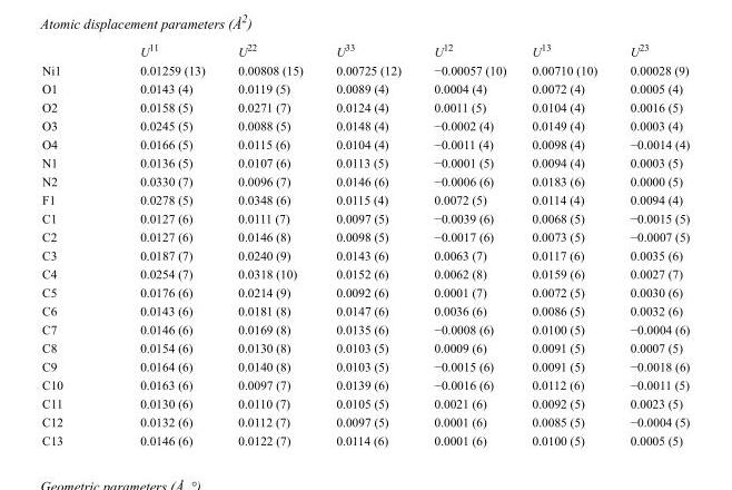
<table><thead><tr><td></td><td>U<sup>11</sup></td><td>U<sup>22</sup></td><td>U<sup>33</sup></td><td>U<sup>12</sup></td><td>U<sup>13</sup></td><td>U<sup>23</sup></td></tr></thead><tbody><tr><td>Ni1</td><td>0.01259 (13)</td><td>0.00808 (15)</td><td>0.00725 (12)</td><td>−0.00057 (10)</td><td>0.00710 (10)</td><td>0.00028 (9)</td></tr><tr><td>O1</td><td>0.0143 (4)</td><td>0.0119 (5)</td><td>0.0089 (4)</td><td>0.0004 (4)</td><td>0.0072 (4)</td><td>0.0005 (4)</td></tr><tr><td>O2</td><td>0.0158 (5)</td><td>0.0271 (7)</td><td>0.0124 (4)</td><td>0.0011 (5)</td><td>0.0104 (4)</td><td>0.0016 (5)</td></tr><tr><td>O3</td><td>0.0245 (5)</td><td>0.0088 (5)</td><td>0.0148 (4)</td><td>−0.0002 (4)</td><td>0.0149 (4)</td><td>0.0003 (4)</td></tr><tr><td>O4</td><td>0.0166 (5)</td><td>0.0115 (6)</td><td>0.0104 (4)</td><td>−0.0011 (4)</td><td>0.0098 (4)</td><td>−0.0014 (4)</td></tr><tr><td>N1</td><td>0.0136 (5)</td><td>0.0107 (6)</td><td>0.0113 (5)</td><td>−0.0001 (5)</td><td>0.0094 (4)</td><td>0.0003 (5)</td></tr><tr><td>N2</td><td>0.0330 (7)</td><td>0.0096 (7)</td><td>0.0146 (6)</td><td>−0.0006 (6)</td><td>0.0183 (6)</td><td>0.0000 (5)</td></tr><tr><td>F1</td><td>0.0278 (5)</td><td>0.0348 (6)</td><td>0.0115 (4)</td><td>0.0072 (5)</td><td>0.0114 (4)</td><td>0.0094 (4)</td></tr><tr><td>C1</td><td>0.0127 (6)</td><td>0.0111 (7)</td><td>0.0097 (5)</td><td>−0.0039 (6)</td><td>0.0068 (5)</td><td>−0.0015 (5)</td></tr><tr><td>C2</td><td>0.0127 (6)</td><td>0.0146 (8)</td><td>0.0098 (5)</td><td>−0.0017 (6)</td><td>0.0073 (5)</td><td>−0.0007 (5)</td></tr><tr><td>C3</td><td>0.0187 (7)</td><td>0.0240 (9)</td><td>0.0143 (6)</td><td>0.0063 (7)</td><td>0.0117 (6)</td><td>0.0035 (6)</td></tr><tr><td>C4</td><td>0.0254 (7)</td><td>0.0318 (10)</td><td>0.0152 (6)</td><td>0.0062 (8)</td><td>0.0159 (6)</td><td>0.0027 (7)</td></tr><tr><td>C5</td><td>0.0176 (6)</td><td>0.0214 (9)</td><td>0.0092 (6)</td><td>0.0001 (7)</td><td>0.0072 (5)</td><td>0.0030 (6)</td></tr><tr><td>C6</td><td>0.0143 (6)</td><td>0.0181 (8)</td><td>0.0147 (6)</td><td>0.0036 (6)</td><td>0.0086 (5)</td><td>0.0032 (6)</td></tr><tr><td>C7</td><td>0.0146 (6)</td><td>0.0169 (8)</td><td>0.0135 (6)</td><td>−0.0008 (6)</td><td>0.0100 (5)</td><td>−0.0004 (6)</td></tr><tr><td>C8</td><td>0.0154 (6)</td><td>0.0130 (8)</td><td>0.0103 (5)</td><td>0.0009 (6)</td><td>0.0091 (5)</td><td>0.0007 (5)</td></tr><tr><td>C9</td><td>0.0164 (6)</td><td>0.0140 (8)</td><td>0.0103 (5)</td><td>−0.0015 (6)</td><td>0.0091 (5)</td><td>−0.0018 (6)</td></tr><tr><td>C10</td><td>0.0163 (6)</td><td>0.0097 (7)</td><td>0.0139 (6)</td><td>−0.0016 (6)</td><td>0.0112 (6)</td><td>−0.0011 (5)</td></tr><tr><td>C11</td><td>0.0130 (6)</td><td>0.0110 (7)</td><td>0.0105 (5)</td><td>0.0021 (6)</td><td>0.0092 (5)</td><td>0.0023 (5)</td></tr><tr><td>C12</td><td>0.0132 (6)</td><td>0.0112 (7)</td><td>0.0097 (5)</td><td>0.0001 (6)</td><td>0.0085 (5)</td><td>−0.0004 (5)</td></tr><tr><td>C13</td><td>0.0146 (6)</td><td>0.0122 (7)</td><td>0.0114 (6)</td><td>0.0001 (6)</td><td>0.0100 (5)</td><td>0.0005 (5)</td></tr></tbody></table>